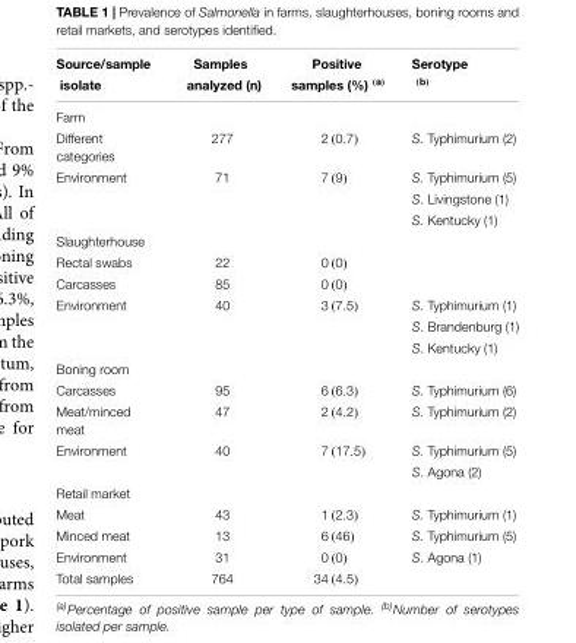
<table><thead><tr><td>Source/sample isolate</td><td>Samples analyzed (n)</td><td>Positive samples (%) <sup>(a)</sup></td><td>Serotype <sup>(b)</sup></td></tr></thead><tbody><tr><td colspan="4">Farm</td></tr><tr><td>Different categories</td><td>277</td><td>2 (0.7)</td><td>S. Typhimurium (2)</td></tr><tr><td rowspan="3">Environment</td><td>71</td><td>7 (9)</td><td>S. Typhimurium (5)</td></tr><tr><td></td><td></td><td>S. Livingstone (1)</td></tr><tr><td></td><td></td><td>S. Kentucky (1)</td></tr><tr><td colspan="4">Slaughterhouse</td></tr><tr><td>Rectal swabs</td><td>22</td><td>0 (0)</td><td></td></tr><tr><td>Carcasses</td><td>85</td><td>0 (0)</td><td></td></tr><tr><td rowspan="3">Environment</td><td>40</td><td>3 (7.5)</td><td>S. Typhimurium (1)</td></tr><tr><td></td><td></td><td>S. Brandenburg (1)</td></tr><tr><td></td><td></td><td>S. Kentucky (1)</td></tr><tr><td colspan="4">Boning room</td></tr><tr><td>Carcasses</td><td>95</td><td>6 (6.3)</td><td>S. Typhimurium (6)</td></tr><tr><td>Meat/minced meat</td><td>47</td><td>2 (4.2)</td><td>S. Typhimurium (2)</td></tr><tr><td rowspan="2">Environment</td><td>40</td><td>7 (17.5)</td><td>S. Typhimurium (5)</td></tr><tr><td></td><td></td><td>S. Agona (2)</td></tr><tr><td colspan="4">Retail market</td></tr><tr><td>Meat</td><td>43</td><td>1 (2.3)</td><td>S. Typhimurium (1)</td></tr><tr><td>Minced meat</td><td>13</td><td>6 (46)</td><td>S. Typhimurium (5)</td></tr><tr><td>Environment</td><td>31</td><td>0 (0)</td><td>S. Agona (1)</td></tr><tr><td>Total samples</td><td>764</td><td>34 (4.5)</td><td></td></tr></tbody></table>